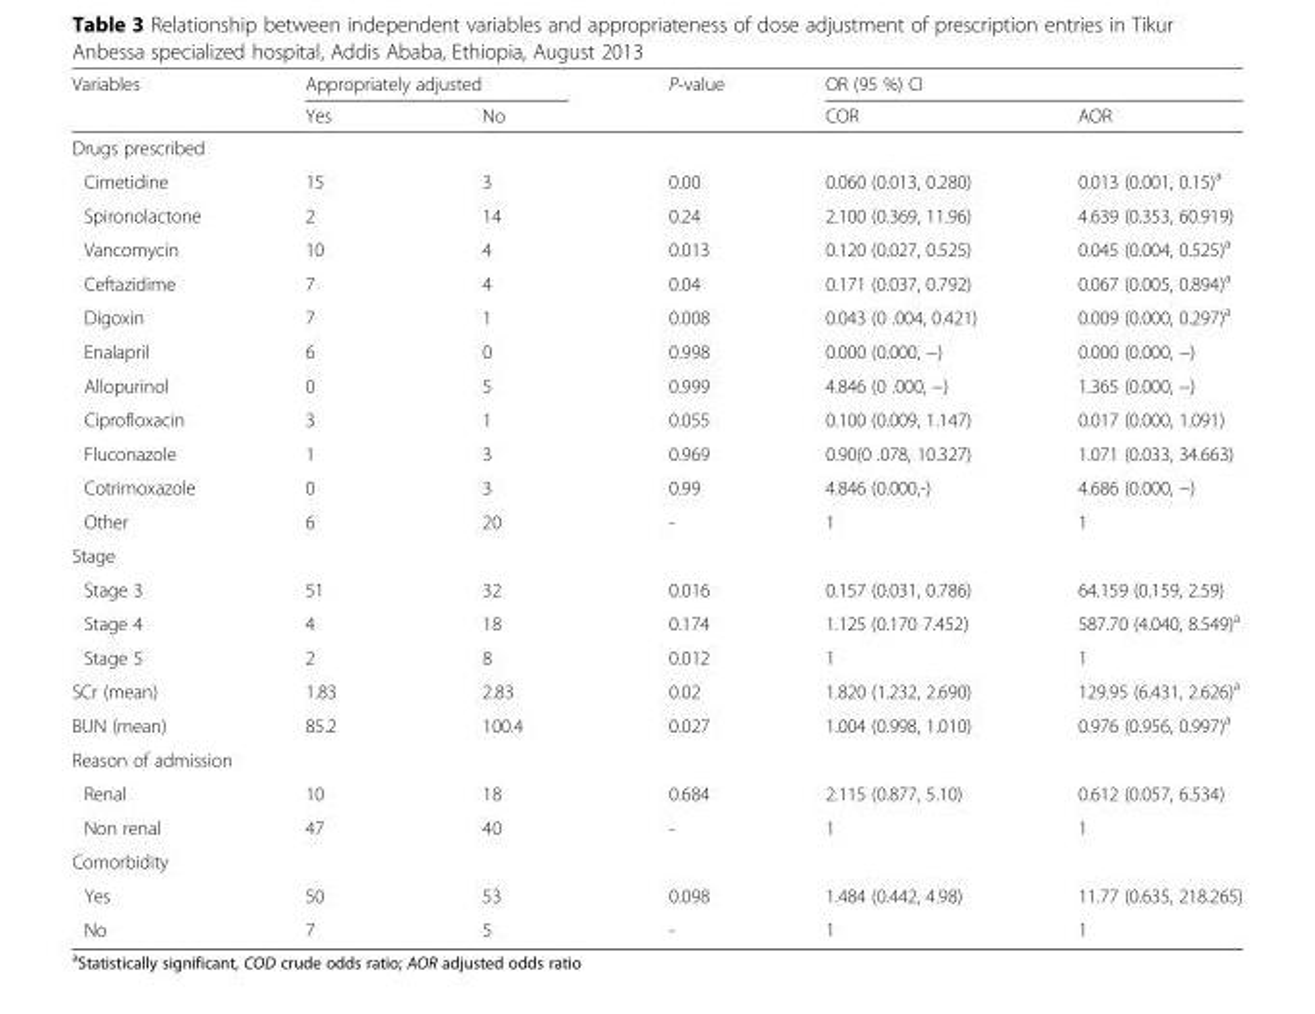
<table><thead><tr><td rowspan="2">Variables</td><td colspan="2">Appropriately adjusted</td><td rowspan="2">P-value</td><td colspan="2">OR (95 %) CI</td></tr><tr><td>Yes</td><td>No</td><td>COR</td><td>AOR</td></tr></thead><tbody><tr><td colspan="6">Drugs prescribed</td></tr><tr><td>Cimetidine</td><td>15</td><td>3</td><td>0.00</td><td>0.060 (0.013, 0.280)</td><td>0.013 (0.001, 0.15)<sup>a</sup></td></tr><tr><td>Spironolactone</td><td>2</td><td>14</td><td>0.24</td><td>2.100 (0.369, 11.96)</td><td>4.639 (0.353, 60.919)</td></tr><tr><td>Vancomycin</td><td>10</td><td>4</td><td>0.013</td><td>0.120 (0.027, 0.525)</td><td>0.045 (0.004, 0.525)<sup>a</sup></td></tr><tr><td>Ceftazidime</td><td>7</td><td>4</td><td>0.04</td><td>0.171 (0.037, 0.792)</td><td>0.067 (0.005, 0.894)<sup>a</sup></td></tr><tr><td>Digoxin</td><td>7</td><td>1</td><td>0.008</td><td>0.043 (0 .004, 0.421)</td><td>0.009 (0.000, 0.297)<sup>a</sup></td></tr><tr><td>Enalapril</td><td>6</td><td>0</td><td>0.998</td><td>0.000 (0.000, −)</td><td>0.000 (0.000, −)</td></tr><tr><td>Allopurinol</td><td>0</td><td>5</td><td>0.999</td><td>4.846 (0 .000, −)</td><td>1.365 (0.000, −)</td></tr><tr><td>Ciprofloxacin</td><td>3</td><td>1</td><td>0.055</td><td>0.100 (0.009, 1.147)</td><td>0.017 (0.000, 1.091)</td></tr><tr><td>Fluconazole</td><td>1</td><td>3</td><td>0.969</td><td>0.90(0 .078, 10.327)</td><td>1.071 (0.033, 34.663)</td></tr><tr><td>Cotrimoxazole</td><td>0</td><td>3</td><td>0.99</td><td>4.846 (0.000,-)</td><td>4.686 (0.000, −)</td></tr><tr><td>Other</td><td>6</td><td>20</td><td>-</td><td>1</td><td>1</td></tr><tr><td colspan="6">Stage</td></tr><tr><td>Stage 3</td><td>51</td><td>32</td><td>0.016</td><td>0.157 (0.031, 0.786)</td><td>64.159 (0.159, 2.59)</td></tr><tr><td>Stage 4</td><td>4</td><td>18</td><td>0.174</td><td>1.125 (0.170 7.452)</td><td>587.70 (4.040, 8.549)<sup>a</sup></td></tr><tr><td>Stage 5</td><td>2</td><td>8</td><td>0.012</td><td>1</td><td>1</td></tr><tr><td>SCr (mean)</td><td>1.83</td><td>2.83</td><td>0.02</td><td>1.820 (1.232, 2.690)</td><td>129.95 (6.431, 2.626)<sup>a</sup></td></tr><tr><td>BUN (mean)</td><td>85.2</td><td>100.4</td><td>0.027</td><td>1.004 (0.998, 1.010)</td><td>0.976 (0.956, 0.997)<sup>a</sup></td></tr><tr><td colspan="6">Reason of admission</td></tr><tr><td>Renal</td><td>10</td><td>18</td><td>0.684</td><td>2.115 (0.877, 5.10)</td><td>0.612 (0.057, 6.534)</td></tr><tr><td>Non renal</td><td>47</td><td>40</td><td>-</td><td>1</td><td>1</td></tr><tr><td colspan="6">Comorbidity</td></tr><tr><td>Yes</td><td>50</td><td>53</td><td>0.098</td><td>1.484 (0.442, 4.98)</td><td>11.77 (0.635, 218.265)</td></tr><tr><td>No</td><td>7</td><td>5</td><td>-</td><td>1</td><td>1</td></tr></tbody></table>